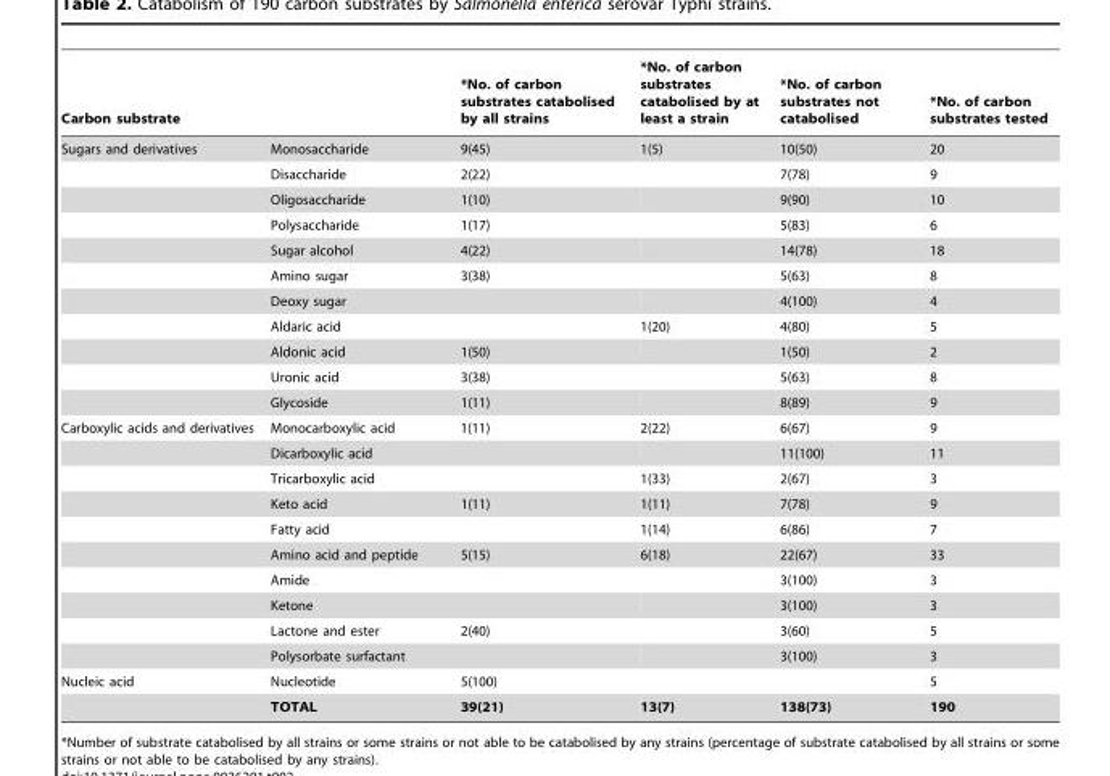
<table><thead><tr><td colspan="2">Carbon substrate</td><td rowspan="2">*No. of carbon substrates catabolised by all strains 9(45)</td><td rowspan="2">*No. of carbon substrates catabolised by at least a strain 1(5)</td><td rowspan="2">*No. of carbon substrates not catabolised 10(50)</td><td rowspan="2">*No. of carbon substrates tested 20</td></tr><tr><td>Sugars and derivatives</td><td>Monosaccharide</td></tr></thead><tbody><tr><td></td><td>Disaccharide</td><td>2(22)</td><td></td><td>7(78)</td><td>9</td></tr><tr><td></td><td>Oligosaccharide</td><td>1(10)</td><td></td><td>9(90)</td><td>10</td></tr><tr><td></td><td>Polysaccharide</td><td>1(17)</td><td></td><td>5(83)</td><td>6</td></tr><tr><td></td><td>Sugar alcohol</td><td>4(22)</td><td></td><td>14(78)</td><td>18</td></tr><tr><td></td><td>Amino sugar</td><td>3(38)</td><td></td><td>5(63)</td><td>8</td></tr><tr><td></td><td>Deoxy sugar</td><td></td><td></td><td>4(100)</td><td>4</td></tr><tr><td></td><td>Aldaric acid</td><td></td><td>1(20)</td><td>4(80)</td><td>5</td></tr><tr><td></td><td>Aldonic acid</td><td>1(50)</td><td></td><td>1(50)</td><td>2</td></tr><tr><td></td><td>Uronic acid</td><td>3(38)</td><td></td><td>5(63)</td><td>8</td></tr><tr><td></td><td>Glycoside</td><td>1(11)</td><td></td><td>8(89)</td><td>9</td></tr><tr><td rowspan="10">Carboxylic acids and derivatives</td><td>Monocarboxylic acid</td><td>1(11)</td><td>2(22)</td><td>6(67)</td><td>9</td></tr><tr><td>Dicarboxylic acid</td><td></td><td></td><td>11(100)</td><td>11</td></tr><tr><td>Tricarboxylic acid</td><td></td><td>1(33)</td><td>2(67)</td><td>3</td></tr><tr><td>Keto acid</td><td>1(11)</td><td>1(11)</td><td>7(78)</td><td>9</td></tr><tr><td>Fatty acid</td><td></td><td>1(14)</td><td>6(86)</td><td>7</td></tr><tr><td>Amino acid and peptide</td><td>5(15)</td><td>6(18)</td><td>22(67)</td><td>33</td></tr><tr><td>Amide</td><td></td><td></td><td>3(100)</td><td>3</td></tr><tr><td>Ketone</td><td></td><td></td><td>3(100)</td><td>3</td></tr><tr><td>Lactone and ester</td><td>2(40)</td><td></td><td>3(60)</td><td>5</td></tr><tr><td>Polysorbate surfactant</td><td></td><td></td><td>3(100)</td><td>3</td></tr><tr><td rowspan="2">Nucleic acid</td><td>Nucleotide</td><td>5(100)</td><td></td><td></td><td>5</td></tr><tr><td>TOTAL</td><td>39(21)</td><td>13(7)</td><td>138(73)</td><td>190</td></tr></tbody></table>